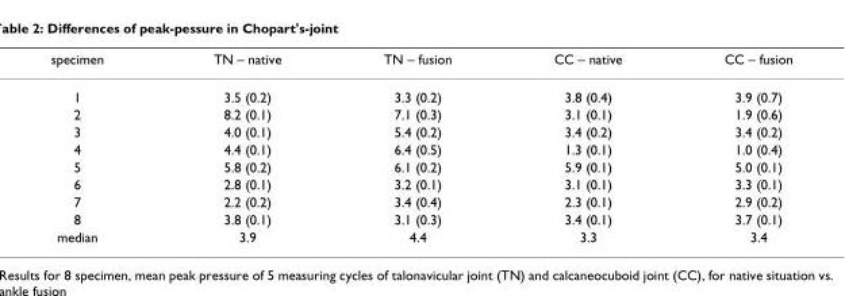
<table><thead><tr><td>specimen</td><td>TN – native</td><td>TN – fusion</td><td>CC – native</td><td>CC – fusion</td></tr></thead><tbody><tr><td>1</td><td>3.5 (0.2)</td><td>3.3 (0.2)</td><td>3.8 (0.4)</td><td>3.9 (0.7)</td></tr><tr><td>2</td><td>8.2 (0.1)</td><td>7.1 (0.3)</td><td>3.1 (0.1)</td><td>1.9 (0.6)</td></tr><tr><td>3</td><td>4.0 (0.1)</td><td>5.4 (0.2)</td><td>3.4 (0.2)</td><td>3.4 (0.2)</td></tr><tr><td>4</td><td>4.4 (0.1)</td><td>6.4 (0.5)</td><td>1.3 (0.1)</td><td>1.0 (0.4)</td></tr><tr><td>5</td><td>5.8 (0.2)</td><td>6.1 (0.2)</td><td>5.9 (0.1)</td><td>5.0 (0.1)</td></tr><tr><td>6</td><td>2.8 (0.1)</td><td>3.2 (0.1)</td><td>3.1 (0.1)</td><td>3.3 (0.1)</td></tr><tr><td>7</td><td>2.2 (0.2)</td><td>3.4 (0.4)</td><td>2.3 (0.1)</td><td>2.9 (0.2)</td></tr><tr><td>8</td><td>3.8 (0.1)</td><td>3.1 (0.3)</td><td>3.4 (0.1)</td><td>3.7 (0.1)</td></tr><tr><td>median</td><td>3.9</td><td>4.4</td><td>3.3</td><td>3.4</td></tr></tbody></table>